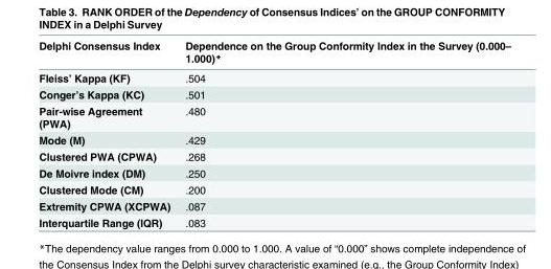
<table><thead><tr><td>Delphi Consensus Index</td><td>Dependence on the Group Conformity Index in the Survey (0.000– 1.000)*</td></tr></thead><tbody><tr><td>Fleiss’ Kappa (KF)</td><td>.504</td></tr><tr><td>Conger’s Kappa (KC)</td><td>.501</td></tr><tr><td>Pair-wise Agreement (PWA)</td><td>.480</td></tr><tr><td>Mode (M)</td><td>.429</td></tr><tr><td>Clustered PWA (CPWA)</td><td>.268</td></tr><tr><td>De Moivre index (DM)</td><td>.250</td></tr><tr><td>Clustered Mode (CM)</td><td>.200</td></tr><tr><td>Extremity CPWA (XCPWA)</td><td>.087</td></tr><tr><td>Interquartile Range (IQR)</td><td>.083</td></tr></tbody></table>